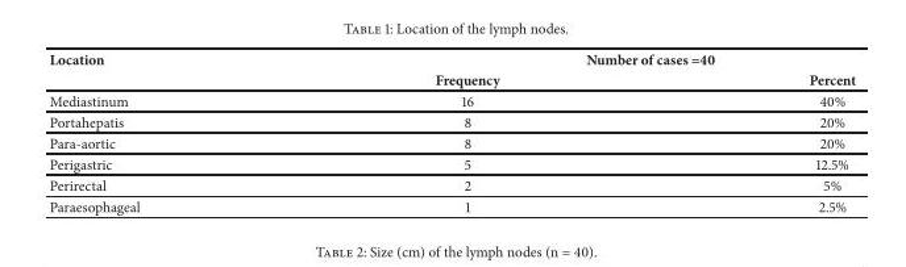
<table><thead><tr><td rowspan="2">Location</td><td colspan="2">Number of cases =40</td></tr><tr><td>Frequency</td><td>Percent</td></tr></thead><tbody><tr><td>Mediastinum</td><td>16</td><td>40%</td></tr><tr><td>Portahepatis</td><td>8</td><td>20%</td></tr><tr><td>Para-aortic</td><td>8</td><td>20%</td></tr><tr><td>Perigastric</td><td>5</td><td>12.5%</td></tr><tr><td>Perirectal</td><td>2</td><td>5%</td></tr><tr><td>Paraesophageal</td><td>1</td><td>2.5%</td></tr></tbody></table>